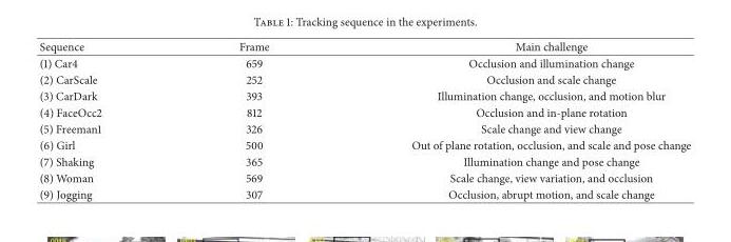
<table><thead><tr><td>Sequence</td><td>Frame</td><td>Main challenge</td></tr></thead><tbody><tr><td>(1) Car4</td><td>659</td><td>Occlusion and illumination change</td></tr><tr><td>(2) CarScale</td><td>252</td><td>Occlusion and scale change</td></tr><tr><td>(3) CarDark</td><td>393</td><td>Illumination change, occlusion, and motion blur</td></tr><tr><td>(4) FaceOcc2</td><td>812</td><td>Occlusion and in-plane rotation</td></tr><tr><td>(5) Freeman1</td><td>326</td><td>Scale change and view change</td></tr><tr><td>(6) Girl</td><td>500</td><td>Out of plane rotation, occlusion, and scale and pose change</td></tr><tr><td>(7) Shaking</td><td>365</td><td>Illumination change and pose change</td></tr><tr><td>(8) Woman</td><td>569</td><td>Scale change, view variation, and occlusion</td></tr><tr><td>(9) Jogging</td><td>307</td><td>Occlusion, abrupt motion, and scale change</td></tr></tbody></table>